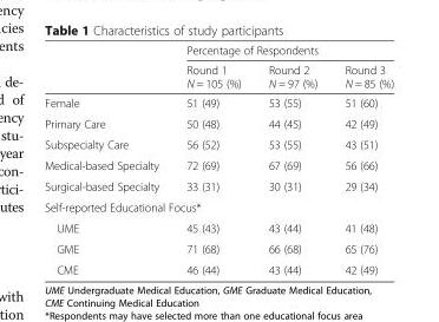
<table><thead><tr><td rowspan="2"></td><td colspan="3">Percentage of Respondents</td></tr><tr><td>Round 1 N = 105 (%)</td><td>Round 2 N = 97 (%)</td><td>Round 3 N = 85 (%)</td></tr></thead><tbody><tr><td>Female</td><td>51 (49)</td><td>53 (55)</td><td>51 (60)</td></tr><tr><td>Primary Care</td><td>50 (48)</td><td>44 (45)</td><td>42 (49)</td></tr><tr><td>Subspecialty Care</td><td>56 (52)</td><td>53 (55)</td><td>43 (51)</td></tr><tr><td>Medical-based Specialty</td><td>72 (69)</td><td>67 (69)</td><td>56 (66)</td></tr><tr><td>Surgical-based Specialty</td><td>33 (31)</td><td>30 (31)</td><td>29 (34)</td></tr><tr><td colspan="4">Self-reported Educational Focus*</td></tr><tr><td>UME</td><td>45 (43)</td><td>43 (44)</td><td>41 (48)</td></tr><tr><td>GME</td><td>71 (68)</td><td>66 (68)</td><td>65 (76)</td></tr><tr><td>CME</td><td>46 (44)</td><td>43 (44)</td><td>42 (49)</td></tr></tbody></table>